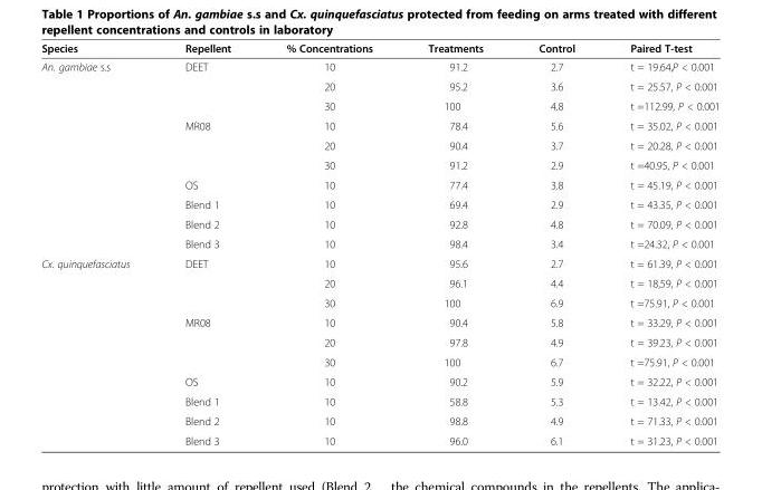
<table><thead><tr><td>Species</td><td>Repellent</td><td>% Concentrations</td><td>Treatments</td><td>Control</td><td>Paired T-test</td></tr></thead><tbody><tr><td rowspan="10">An. gambiae s.s</td><td>DEET</td><td>10</td><td>91.2</td><td>2.7</td><td>t = 19.64,P &lt; 0.001</td></tr><tr><td></td><td>20</td><td>95.2</td><td>3.6</td><td>t = 25.57, P &lt; 0.001</td></tr><tr><td></td><td>30</td><td>100</td><td>4.8</td><td>t =112.99, P &lt; 0.001</td></tr><tr><td>MR08</td><td>10</td><td>78.4</td><td>5.6</td><td>t = 35.02, P &lt; 0.001</td></tr><tr><td></td><td>20</td><td>90.4</td><td>3.7</td><td>t = 20.28, P &lt; 0.001</td></tr><tr><td></td><td>30</td><td>91.2</td><td>2.9</td><td>t =40.95, P &lt; 0.001</td></tr><tr><td>OS</td><td>10</td><td>77.4</td><td>3.8</td><td>t = 45.19, P &lt; 0.001</td></tr><tr><td>Blend 1</td><td>10</td><td>69.4</td><td>2.9</td><td>t = 43.35, P &lt; 0.001</td></tr><tr><td>Blend 2</td><td>10</td><td>92.8</td><td>4.8</td><td>t = 70.09, P &lt; 0.001</td></tr><tr><td>Blend 3</td><td>10</td><td>98.4</td><td>3.4</td><td>t =24.32, P &lt; 0.001</td></tr><tr><td rowspan="10">Cx. quinquefasciatus</td><td>DEET</td><td>10</td><td>95.6</td><td>2.7</td><td>t = 61.39, P &lt; 0.001</td></tr><tr><td></td><td>20</td><td>96.1</td><td>4.4</td><td>t = 18,59, P &lt; 0.001</td></tr><tr><td></td><td>30</td><td>100</td><td>6.9</td><td>t =75.91, P &lt; 0.001</td></tr><tr><td>MR08</td><td>10</td><td>90.4</td><td>5.8</td><td>t = 33.29, P &lt; 0.001</td></tr><tr><td></td><td>20</td><td>97.8</td><td>4.9</td><td>t = 39.23, P &lt; 0.001</td></tr><tr><td></td><td>30</td><td>100</td><td>6.7</td><td>t =75.91, P &lt; 0.001</td></tr><tr><td>OS</td><td>10</td><td>90.2</td><td>5.9</td><td>t = 32.22, P &lt; 0.001</td></tr><tr><td>Blend 1</td><td>10</td><td>58.8</td><td>5.3</td><td>t = 13.42, P &lt; 0.001</td></tr><tr><td>Blend 2</td><td>10</td><td>98.8</td><td>4.9</td><td>t = 71.33, P &lt; 0.001</td></tr><tr><td>Blend 3</td><td>10</td><td>96.0</td><td>6.1</td><td>t = 31.23, P &lt; 0.001</td></tr></tbody></table>